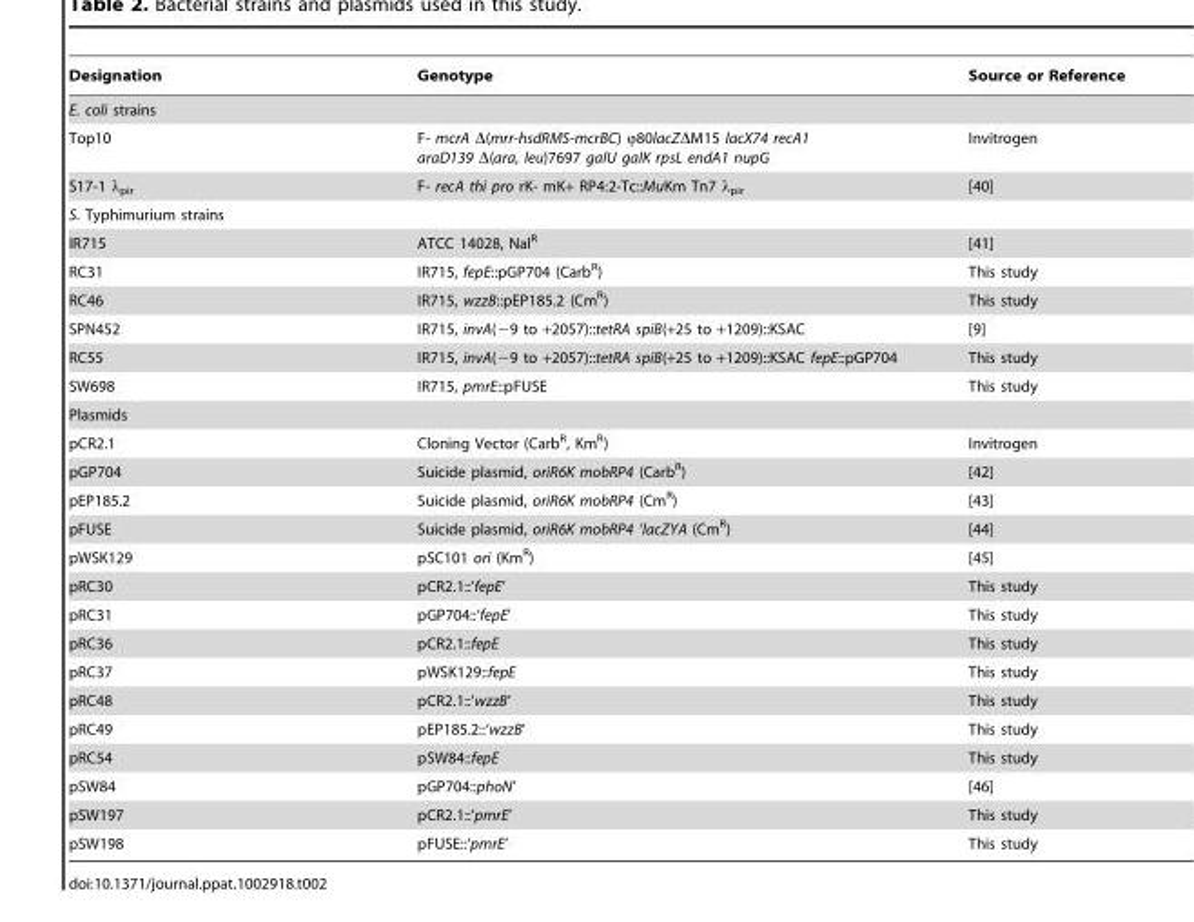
<table><thead><tr><td>Designation</td><td>Genotype</td><td>Source or Reference</td></tr></thead><tbody><tr><td colspan="3">E. coli strains</td></tr><tr><td>Top10</td><td>F- mcrA Δ(mrr-hsdRMS-mcrBC) φ80lacZΔM15 lacX74 recA1 araD139 Δ(ara, leu)7697 galU galK rpsL endA1 nupG</td><td>Invitrogen</td></tr><tr><td>S17-1 λ<sub>pir</sub></td><td>F- recA thi pro rK- mK+ RP4:2-Tc::MuKm Tn7 λ<sub>pir</sub></td><td>[40]</td></tr><tr><td colspan="3">S. Typhimurium strains</td></tr><tr><td>IR715</td><td>ATCC 14028, Nal<sup>R</sup></td><td>[41]</td></tr><tr><td>RC31</td><td>IR715, fepE::pGP704 (Carb<sup>R</sup>)</td><td>This study</td></tr><tr><td>RC46</td><td>IR715, wzzB::pEP185.2 (Cm<sup>R</sup>)</td><td>This study</td></tr><tr><td>SPN452</td><td>IR715, invA(−9 to +2057)::tetRA spiB(+25 to +1209)::KSAC</td><td>[9]</td></tr><tr><td>RC55</td><td>IR715, invA(−9 to +2057)::tetRA spiB(+25 to +1209)::KSAC fepE::pGP704</td><td>This study</td></tr><tr><td>SW698</td><td>IR715, pmrE::pFUSE</td><td>This study</td></tr><tr><td colspan="3">Plasmids</td></tr><tr><td>pCR2.1</td><td>Cloning Vector (Carb<sup>R</sup>, Km<sup>R</sup>)</td><td>Invitrogen</td></tr><tr><td>pGP704</td><td>Suicide plasmid, oriR6K mobRP4 (Carb<sup>R</sup>)</td><td>[42]</td></tr><tr><td>pEP185.2</td><td>Suicide plasmid, oriR6K mobRP4 (Cm<sup>R</sup>)</td><td>[43]</td></tr><tr><td>pFUSE</td><td>Suicide plasmid, oriR6K mobRP4 ‘lacZYA (Cm<sup>R</sup>)</td><td>[44]</td></tr><tr><td>pWSK129</td><td>pSC101 ori (Km<sup>R</sup>)</td><td>[45]</td></tr><tr><td>pRC30</td><td>pCR2.1::‘fepE’</td><td>This study</td></tr><tr><td>pRC31</td><td>pGP704::‘fepE’</td><td>This study</td></tr><tr><td>pRC36</td><td>pCR2.1::fepE</td><td>This study</td></tr><tr><td>pRC37</td><td>pWSK129::fepE</td><td>This study</td></tr><tr><td>pRC48</td><td>pCR2.1::‘wzzB’</td><td>This study</td></tr><tr><td>pRC49</td><td>pEP185.2::‘wzzB’</td><td>This study</td></tr><tr><td>pRC54</td><td>pSW84::fepE</td><td>This study</td></tr><tr><td>pSW84</td><td>pGP704::phoN’</td><td>[46]</td></tr><tr><td>pSW197</td><td>pCR2.1::‘pmrE’</td><td>This study</td></tr><tr><td>pSW198</td><td>pFUSE::‘pmrE’</td><td>This study</td></tr></tbody></table>